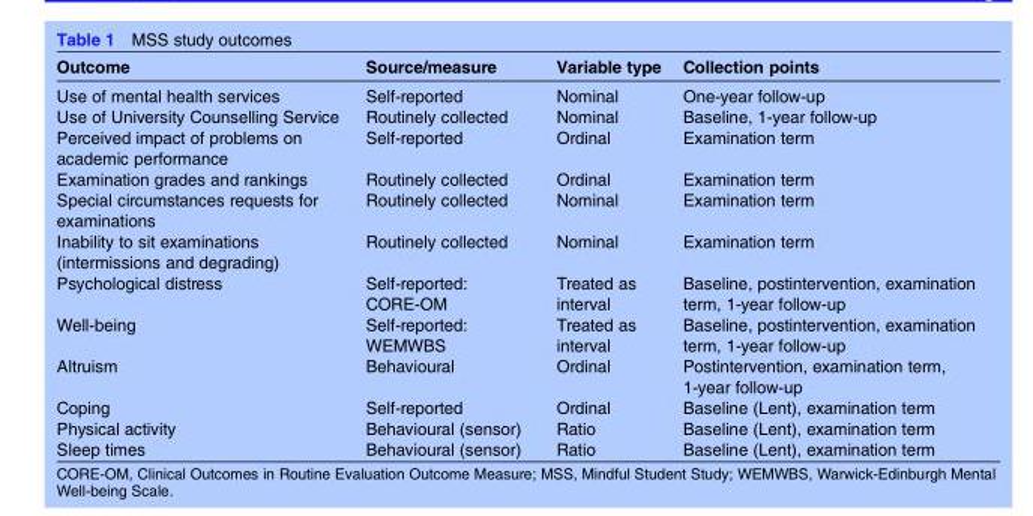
<table><thead><tr><td>Outcome</td><td>Source/measure</td><td>Variable type</td><td>Collection points</td></tr></thead><tbody><tr><td>Use of mental health services</td><td>Self-reported</td><td>Nominal</td><td>One-year follow-up</td></tr><tr><td>Use of University Counselling Service</td><td>Routinely collected</td><td>Nominal</td><td>Baseline, 1-year follow-up</td></tr><tr><td>Perceived impact of problems on academic performance</td><td>Self-reported</td><td>Ordinal</td><td>Examination term</td></tr><tr><td>Examination grades and rankings</td><td>Routinely collected</td><td>Ordinal</td><td>Examination term</td></tr><tr><td>Special circumstances requests for examinations</td><td>Routinely collected</td><td>Nominal</td><td>Examination term</td></tr><tr><td>Inability to sit examinations (intermissions and degrading)</td><td>Routinely collected</td><td>Nominal</td><td>Examination term</td></tr><tr><td>Psychological distress</td><td>Self-reported: CORE-OM</td><td>Treated as interval</td><td>Baseline, postintervention, examination term, 1-year follow-up</td></tr><tr><td>Well-being</td><td>Self-reported: WEMWBS</td><td>Treated as interval</td><td>Baseline, postintervention, examination term, 1-year follow-up</td></tr><tr><td>Altruism</td><td>Behavioural</td><td>Ordinal</td><td>Postintervention, examination term, 1-year follow-up</td></tr><tr><td>Coping</td><td>Self-reported</td><td>Ordinal</td><td>Baseline (Lent), examination term</td></tr><tr><td>Physical activity</td><td>Behavioural (sensor)</td><td>Ratio</td><td>Baseline (Lent), examination term</td></tr><tr><td>Sleep times</td><td>Behavioural (sensor)</td><td>Ratio</td><td>Baseline (Lent), examination term</td></tr></tbody></table>